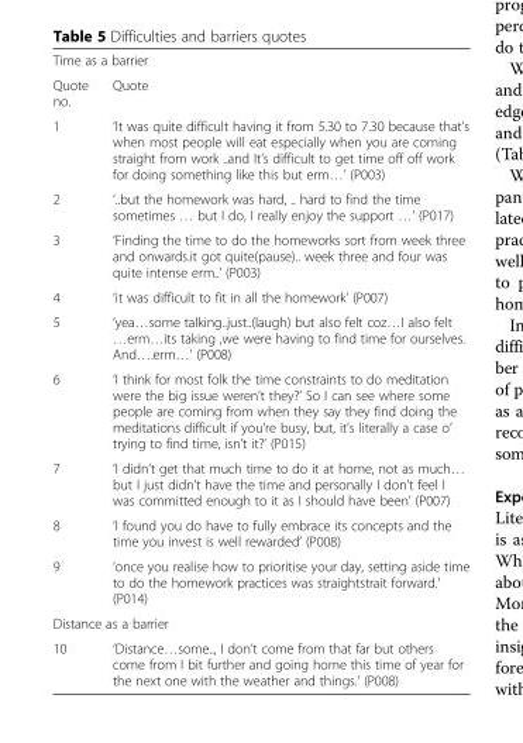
<table><tbody><tr><td colspan="2">Time as a barrier</td></tr><tr><td>Quote no.</td><td>Quote</td></tr><tr><td>1</td><td>‘It was quite difficult having it from 5.30 to 7.30 because that’s when most people will eat especially when you are coming straight from work ..and It’s difficult to get time off off work for doing something like this but erm…’ (P003)</td></tr><tr><td>2</td><td>‘..but the homework was hard, .. hard to find the time sometimes … but I do, I really enjoy the support …’ (P017)</td></tr><tr><td>3</td><td>‘Finding the time to do the homeworks sort from week three and onwards.it got quite(pause).. week three and four was quite intense erm..’ (P003)</td></tr><tr><td>4</td><td>‘it was difficult to fit in all the homework’ (P007)</td></tr><tr><td>5</td><td>‘yea…some talking..just..(laugh) but also felt coz…I also felt …erm…its taking ,we were having to find time for ourselves. And….erm…’ (P008)</td></tr><tr><td>6</td><td>‘I think for most folk the time constraints to do meditation were the big issue weren’t they?’ So I can see where some people are coming from when they say they find doing the meditations difficult if you’re busy, but, it’s literally a case o’ trying to find time, isn’t it?’ (P015)</td></tr><tr><td>7</td><td>‘I didn’t get that much time to do it at home, not as much… but I just didn’t have the time and personally I don’t feel I was committed enough to it as I should have been’ (P007)</td></tr><tr><td>8</td><td>‘I found you do have to fully embrace its concepts and the time you invest is well rewarded’ (P008)</td></tr><tr><td>9</td><td>‘once you realise how to prioritise your day, setting aside time to do the homework practices was straightstrait forward.’ (P014)</td></tr><tr><td colspan="2">Distance as a barrier</td></tr><tr><td>10</td><td>‘Distance…some.., I don’t come from that far but others come from I bit further and going home this time of year for the next one with the weather and things.’ (P008)</td></tr></tbody></table>